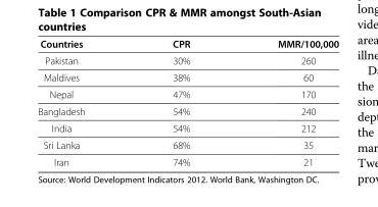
<table><thead><tr><td>Countries</td><td>CPR</td><td>MMR/100,000</td></tr></thead><tbody><tr><td>Pakistan</td><td>30%</td><td>260</td></tr><tr><td>Maldives</td><td>38%</td><td>60</td></tr><tr><td>Nepal</td><td>47%</td><td>170</td></tr><tr><td>Bangladesh</td><td>54%</td><td>240</td></tr><tr><td>India</td><td>54%</td><td>212</td></tr><tr><td>Sri Lanka</td><td>68%</td><td>35</td></tr><tr><td>Iran</td><td>74%</td><td>21</td></tr></tbody></table>